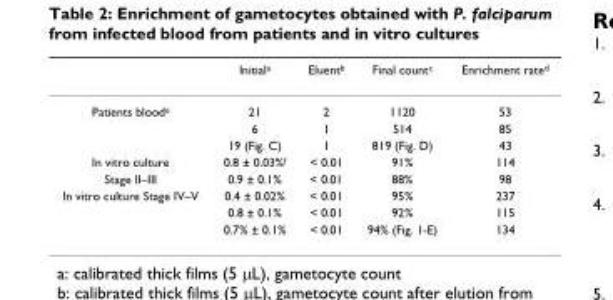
<table><thead><tr><td></td><td>Initial<sup>a</sup></td><td>Eluent<sup>b</sup></td><td>Final count<sup>c</sup></td><td>Enrichment rate<sup>d</sup></td></tr></thead><tbody><tr><td rowspan="3">Patients blood<sup>e</sup></td><td>21</td><td>2</td><td>1120</td><td>53</td></tr><tr><td>6</td><td>1</td><td>514</td><td>85</td></tr><tr><td>19 (Fig. C)</td><td>1</td><td>819 (Fig. D)</td><td>43</td></tr><tr><td>In vitro culture</td><td>0.8 ± 0.03%<sup>f</sup></td><td>&lt; 0.01</td><td>91%</td><td>114</td></tr><tr><td>Stage II–III</td><td>0.9 ± 0.1%</td><td>&lt; 0.01</td><td>88%</td><td>98</td></tr><tr><td rowspan="3">In vitro culture Stage IV–V</td><td>0.4 ± 0.02%</td><td>&lt; 0.01</td><td>95%</td><td>237</td></tr><tr><td>0.8 ± 0.1%</td><td>&lt; 0.01</td><td>92%</td><td>115</td></tr><tr><td>0.7% ± 0.1%</td><td>&lt; 0.01</td><td>94% (Fig. 1-E)</td><td>134</td></tr></tbody></table>